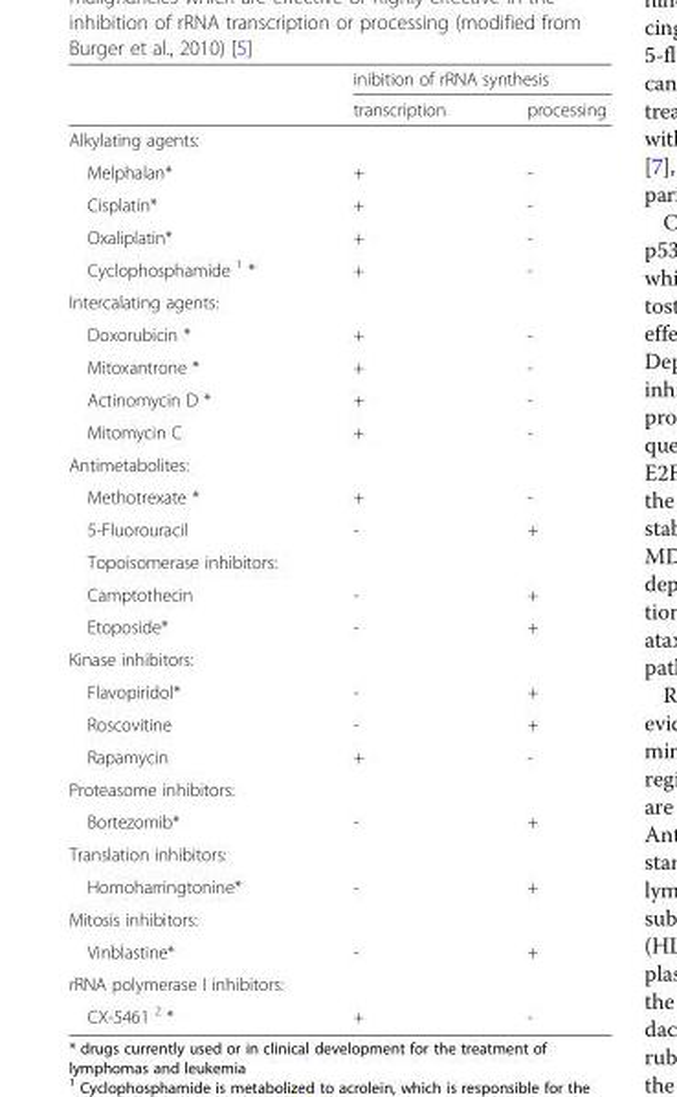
<table><thead><tr><td rowspan="2"></td><td colspan="2">inibition of rRNA synthesis</td></tr><tr><td>transcription</td><td>processing</td></tr></thead><tbody><tr><td colspan="3">Alkylating agents:</td></tr><tr><td>Melphalan*</td><td>+</td><td>-</td></tr><tr><td>Cisplatin*</td><td>+</td><td>-</td></tr><tr><td>Oxaliplatin*</td><td>+</td><td>-</td></tr><tr><td>Cyclophosphamide <sup>1</sup> *</td><td>+</td><td>-</td></tr><tr><td colspan="3">Intercalating agents:</td></tr><tr><td>Doxorubicin *</td><td>+</td><td>-</td></tr><tr><td>Mitoxantrone *</td><td>+</td><td>-</td></tr><tr><td>Actinomycin D *</td><td>+</td><td>-</td></tr><tr><td>Mitomycin C</td><td>+</td><td>-</td></tr><tr><td colspan="3">Antimetabolites:</td></tr><tr><td>Methotrexate *</td><td>+</td><td>-</td></tr><tr><td>5-Fluorouracil</td><td>-</td><td>+</td></tr><tr><td colspan="3">Topoisomerase inhibitors:</td></tr><tr><td>Camptothecin</td><td>-</td><td>+</td></tr><tr><td>Etoposide*</td><td>-</td><td>+</td></tr><tr><td colspan="3">Kinase inhibitors:</td></tr><tr><td>Flavopiridol*</td><td>-</td><td>+</td></tr><tr><td>Roscovitine</td><td>-</td><td>+</td></tr><tr><td>Rapamycin</td><td>+</td><td>-</td></tr><tr><td colspan="3">Proteasome inhibitors:</td></tr><tr><td>Bortezomib*</td><td>-</td><td>+</td></tr><tr><td colspan="3">Translation inhibitors:</td></tr><tr><td>Homoharringtonine*</td><td>-</td><td>+</td></tr><tr><td colspan="3">Mitosis inhibitors:</td></tr><tr><td>Vinblastine*</td><td>-</td><td>+</td></tr><tr><td colspan="3">rRNA polymerase I inhibitors:</td></tr><tr><td>CX-5461 <sup>2</sup> *</td><td>+</td><td>-</td></tr></tbody></table>